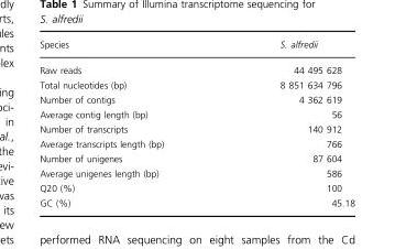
<table><thead><tr><td>Species</td><td>S. alfredii</td></tr></thead><tbody><tr><td>Raw reads</td><td>44 495 628</td></tr><tr><td>Total nucleotides (bp)</td><td>8 851 634 796</td></tr><tr><td>Number of contigs</td><td>4 362 619</td></tr><tr><td>Average contig length (bp)</td><td>56</td></tr><tr><td>Number of transcripts</td><td>140 912</td></tr><tr><td>Average transcripts length (bp)</td><td>766</td></tr><tr><td>Number of unigenes</td><td>87 604</td></tr><tr><td>Average unigenes length (bp)</td><td>586</td></tr><tr><td>Q20 (%)</td><td>100</td></tr><tr><td>GC (%)</td><td>45.18</td></tr></tbody></table>